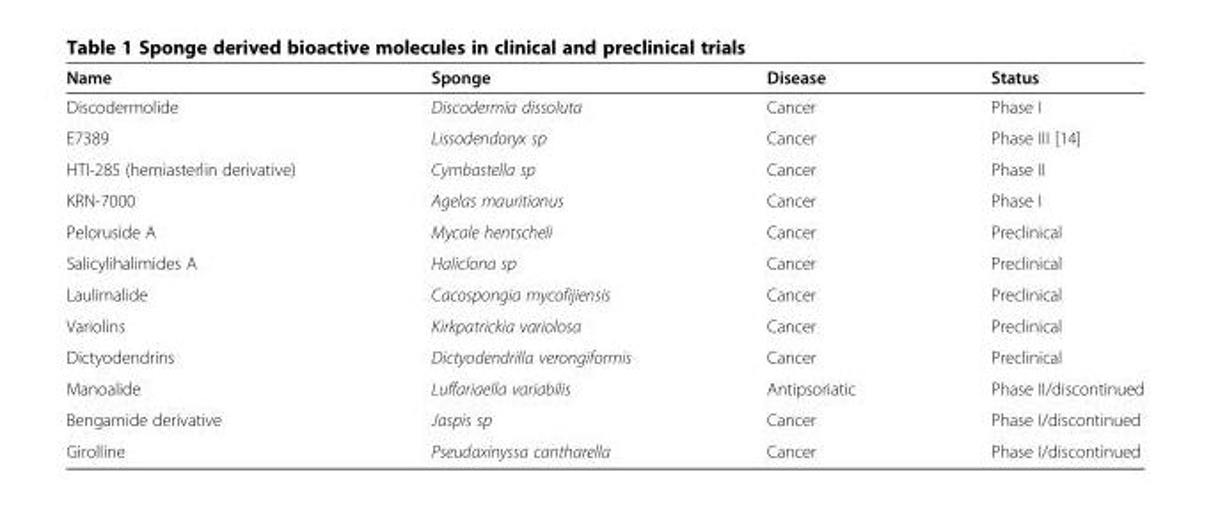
<table><thead><tr><td>Name</td><td>Sponge</td><td>Disease</td><td>Status</td></tr></thead><tbody><tr><td>Discodermolide</td><td>Discodermia dissoluta</td><td>Cancer</td><td>Phase I</td></tr><tr><td>E7389</td><td>Lissodendoryx sp</td><td>Cancer</td><td>Phase III [14]</td></tr><tr><td>HTI-285 (hemiasterlin derivative)</td><td>Cymbastella sp</td><td>Cancer</td><td>Phase II</td></tr><tr><td>KRN-7000</td><td>Agelas mauritianus</td><td>Cancer</td><td>Phase I</td></tr><tr><td>Peloruside A</td><td>Mycale hentscheli</td><td>Cancer</td><td>Preclinical</td></tr><tr><td>Salicylihalimides A</td><td>Haliclona sp</td><td>Cancer</td><td>Preclinical</td></tr><tr><td>Laulimalide</td><td>Cacospongia mycofijiensis</td><td>Cancer</td><td>Preclinical</td></tr><tr><td>Variolins</td><td>Kirkpatrickia variolosa</td><td>Cancer</td><td>Preclinical</td></tr><tr><td>Dictyodendrins</td><td>Dictyodendrilla verongiformis</td><td>Cancer</td><td>Preclinical</td></tr><tr><td>Manoalide</td><td>Luffariaella variabilis</td><td>Antipsoriatic</td><td>Phase II/discontinued</td></tr><tr><td>Bengamide derivative</td><td>Jaspis sp</td><td>Cancer</td><td>Phase I/discontinued</td></tr><tr><td>Girolline</td><td>Pseudaxinyssa cantharella</td><td>Cancer</td><td>Phase I/discontinued</td></tr></tbody></table>